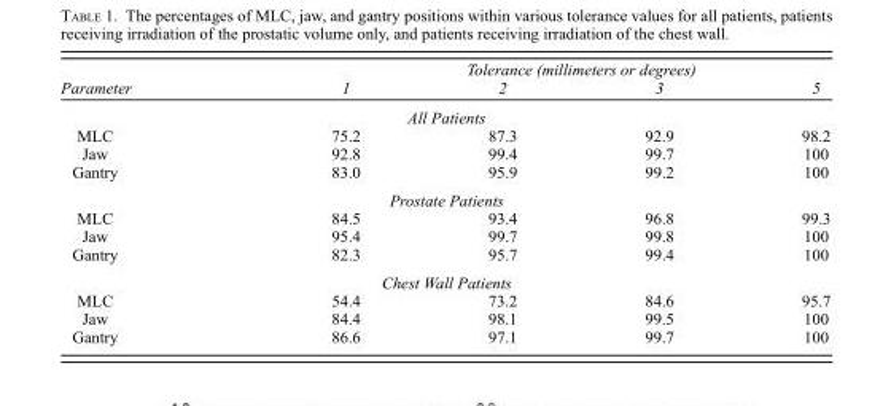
<table><thead><tr><td rowspan="2">Parameter</td><td colspan="4">Tolerance (millimeters or degrees)</td></tr><tr><td>1</td><td>2</td><td>3</td><td>5</td></tr></thead><tbody><tr><td></td><td></td><td>All Patients</td><td></td><td></td></tr><tr><td>MLC</td><td>75.2</td><td>87.3</td><td>92.9</td><td>98.2</td></tr><tr><td>Jaw</td><td>92.8</td><td>99.4</td><td>99.7</td><td>100</td></tr><tr><td rowspan="2">Gantry</td><td>83.0</td><td>95.9</td><td>99.2</td><td>100</td></tr><tr><td></td><td>Prostate Patients</td><td></td><td></td></tr><tr><td>MLC</td><td>84.5</td><td>93.4</td><td>96.8</td><td>99.3</td></tr><tr><td>Jaw</td><td>95.4</td><td>99.7</td><td>99.8</td><td>100</td></tr><tr><td rowspan="2">Gantry</td><td>82.3</td><td>95.7</td><td>99.4</td><td>100</td></tr><tr><td></td><td>Chest Wall Patients</td><td></td><td></td></tr><tr><td>MLC</td><td>54.4</td><td>73.2</td><td>84.6</td><td>95.7</td></tr><tr><td>Jaw</td><td>84.4</td><td>98.1</td><td>99.5</td><td>100</td></tr><tr><td>Gantry</td><td>86.6</td><td>97.1</td><td>99.7</td><td>100</td></tr></tbody></table>